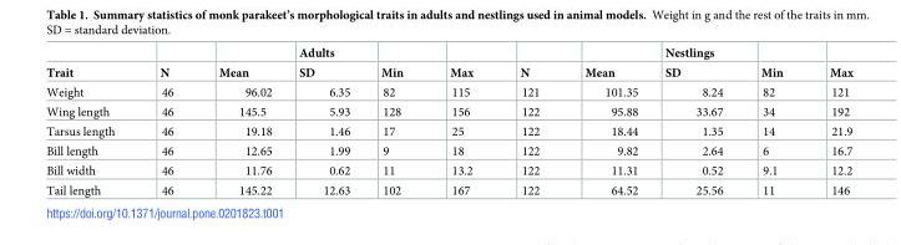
<table><thead><tr><td rowspan="2">Trait</td><td rowspan="2">N</td><td rowspan="2">Mean</td><td rowspan="2">Adults SD</td><td rowspan="2">Min</td><td rowspan="2">Max</td><td rowspan="2">N</td><td rowspan="2">Mean</td><td rowspan="2">Nestlings SD</td><td rowspan="2">Min</td><td rowspan="2">Max</td></tr><tr></tr></thead><tbody><tr><td>Weight</td><td>46</td><td>96.02</td><td>6.35</td><td>82</td><td>115</td><td>121</td><td>101.35</td><td>8.24</td><td>82</td><td>121</td></tr><tr><td>Wing length</td><td>46</td><td>145.5</td><td>5.93</td><td>128</td><td>156</td><td>122</td><td>95.88</td><td>33.67</td><td>34</td><td>192</td></tr><tr><td>Tarsus length</td><td>46</td><td>19.18</td><td>1.46</td><td>17</td><td>25</td><td>122</td><td>18.44</td><td>1.35</td><td>14</td><td>21.9</td></tr><tr><td>Bill length</td><td>46</td><td>12.65</td><td>1.99</td><td>9</td><td>18</td><td>122</td><td>9.82</td><td>2.64</td><td>6</td><td>16.7</td></tr><tr><td>Bill width</td><td>46</td><td>11.76</td><td>0.62</td><td>11</td><td>13.2</td><td>122</td><td>11.31</td><td>0.52</td><td>9.1</td><td>12.2</td></tr><tr><td>Tail length</td><td>46</td><td>145.22</td><td>12.63</td><td>102</td><td>167</td><td>122</td><td>64.52</td><td>25.56</td><td>11</td><td>146</td></tr></tbody></table>